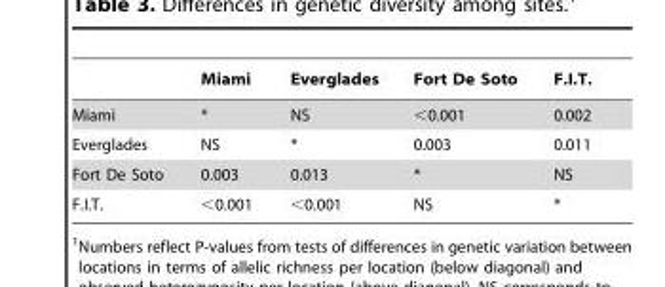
<table><thead><tr><td></td><td>Miami</td><td>Everglades</td><td>Fort De Soto</td><td>F.I.T.</td></tr></thead><tbody><tr><td>Miami</td><td>*</td><td>NS</td><td>&lt;0.001</td><td>0.002</td></tr><tr><td>Everglades</td><td>NS</td><td>*</td><td>0.003</td><td>0.011</td></tr><tr><td>Fort De Soto</td><td>0.003</td><td>0.013</td><td>*</td><td>NS</td></tr><tr><td>F.I.T.</td><td>&lt;0.001</td><td>&lt;0.001</td><td>NS</td><td>*</td></tr></tbody></table>